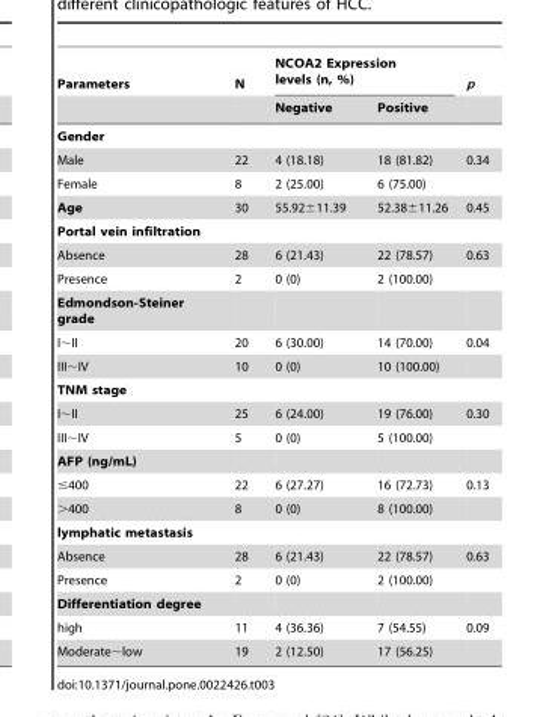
<table><thead><tr><td rowspan="2">Parameters</td><td rowspan="2">N</td><td colspan="2">NCOA2 Expression levels (n, %)</td><td rowspan="2">p</td></tr><tr><td>Negative</td><td>Positive</td></tr></thead><tbody><tr><td colspan="5">Gender</td></tr><tr><td>Male</td><td>22</td><td>4 (18.18)</td><td>18 (81.82)</td><td>0.34</td></tr><tr><td>Female</td><td>8</td><td>2 (25.00)</td><td>6 (75.00)</td><td></td></tr><tr><td>Age</td><td>30</td><td>55.92±11.39</td><td>52.38±11.26</td><td>0.45</td></tr><tr><td colspan="5">Portal vein infiltration</td></tr><tr><td>Absence</td><td>28</td><td>6 (21.43)</td><td>22 (78.57)</td><td>0.63</td></tr><tr><td>Presence</td><td>2</td><td>0 (0)</td><td>2 (100.00)</td><td></td></tr><tr><td colspan="5">Edmondson-Steiner grade</td></tr><tr><td>I∼II</td><td>20</td><td>6 (30.00)</td><td>14 (70.00)</td><td>0.04</td></tr><tr><td>III∼IV</td><td>10</td><td>0 (0)</td><td>10 (100.00)</td><td></td></tr><tr><td colspan="5">TNM stage</td></tr><tr><td>I∼II</td><td>25</td><td>6 (24.00)</td><td>19 (76.00)</td><td>0.30</td></tr><tr><td>III∼IV</td><td>5</td><td>0 (0)</td><td>5 (100.00)</td><td></td></tr><tr><td colspan="5">AFP (ng/mL)</td></tr><tr><td>≤400</td><td>22</td><td>6 (27.27)</td><td>16 (72.73)</td><td>0.13</td></tr><tr><td>&gt;400</td><td>8</td><td>0 (0)</td><td>8 (100.00)</td><td></td></tr><tr><td colspan="5">lymphatic metastasis</td></tr><tr><td>Absence</td><td>28</td><td>6 (21.43)</td><td>22 (78.57)</td><td>0.63</td></tr><tr><td>Presence</td><td>2</td><td>0 (0)</td><td>2 (100.00)</td><td></td></tr><tr><td colspan="5">Differentiation degree</td></tr><tr><td>high</td><td>11</td><td>4 (36.36)</td><td>7 (54.55)</td><td>0.09</td></tr><tr><td>Moderate∼low</td><td>19</td><td>2 (12.50)</td><td>17 (56.25)</td><td></td></tr></tbody></table>